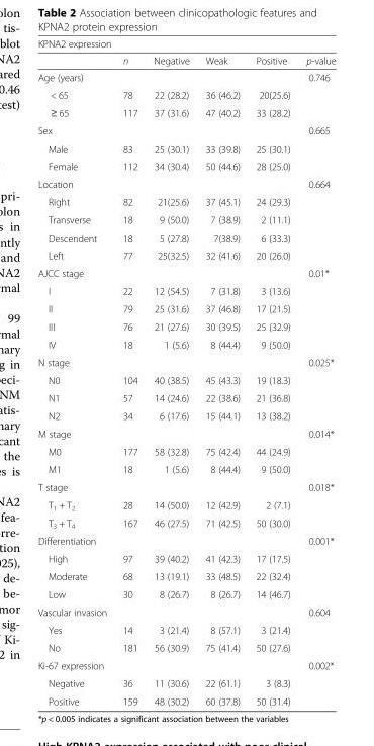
<table><thead><tr><td colspan="6">KPNA2 expression</td></tr><tr><td></td><td>n</td><td>Negative</td><td>Weak</td><td>Positive</td><td>p-value</td></tr></thead><tbody><tr><td>Age (years)</td><td></td><td></td><td></td><td></td><td>0.746</td></tr><tr><td>&lt; 65</td><td>78</td><td>22 (28.2)</td><td>36 (46.2)</td><td>20(25.6)</td><td></td></tr><tr><td>≥ 65</td><td>117</td><td>37 (31.6)</td><td>47 (40.2)</td><td>33 (28.2)</td><td></td></tr><tr><td>Sex</td><td></td><td></td><td></td><td></td><td>0.665</td></tr><tr><td>Male</td><td>83</td><td>25 (30.1)</td><td>33 (39.8)</td><td>25 (30.1)</td><td></td></tr><tr><td>Female</td><td>112</td><td>34 (30.4)</td><td>50 (44.6)</td><td>28 (25.0)</td><td></td></tr><tr><td>Location</td><td></td><td></td><td></td><td></td><td>0.664</td></tr><tr><td>Right</td><td>82</td><td>21(25.6)</td><td>37 (45.1)</td><td>24 (29.3)</td><td></td></tr><tr><td>Transverse</td><td>18</td><td>9 (50.0)</td><td>7 (38.9)</td><td>2 (11.1)</td><td></td></tr><tr><td>Descendent</td><td>18</td><td>5 (27.8)</td><td>7(38.9)</td><td>6 (33.3)</td><td></td></tr><tr><td>Left</td><td>77</td><td>25(32.5)</td><td>32 (41.6)</td><td>20 (26.0)</td><td></td></tr><tr><td>AJCC stage</td><td></td><td></td><td></td><td></td><td>0.01*</td></tr><tr><td>I</td><td>22</td><td>12 (54.5)</td><td>7 (31.8)</td><td>3 (13.6)</td><td></td></tr><tr><td>II</td><td>79</td><td>25 (31.6)</td><td>37 (46.8)</td><td>17 (21.5)</td><td></td></tr><tr><td>III</td><td>76</td><td>21 (27.6)</td><td>30 (39.5)</td><td>25 (32.9)</td><td></td></tr><tr><td>IV</td><td>18</td><td>1 (5.6)</td><td>8 (44.4)</td><td>9 (50.0)</td><td></td></tr><tr><td>N stage</td><td></td><td></td><td></td><td></td><td>0.025*</td></tr><tr><td>N0</td><td>104</td><td>40 (38.5)</td><td>45 (43.3)</td><td>19 (18.3)</td><td></td></tr><tr><td>N1</td><td>57</td><td>14 (24.6)</td><td>22 (38.6)</td><td>21 (36.8)</td><td></td></tr><tr><td>N2</td><td>34</td><td>6 (17.6)</td><td>15 (44.1)</td><td>13 (38.2)</td><td></td></tr><tr><td>M stage</td><td></td><td></td><td></td><td></td><td>0.014*</td></tr><tr><td>M0</td><td>177</td><td>58 (32.8)</td><td>75 (42.4)</td><td>44 (24.9)</td><td></td></tr><tr><td>M1</td><td>18</td><td>1 (5.6)</td><td>8 (44.4)</td><td>9 (50.0)</td><td></td></tr><tr><td>T stage</td><td></td><td></td><td></td><td></td><td>0.018*</td></tr><tr><td>T<sub>1</sub> + T<sub>2</sub></td><td>28</td><td>14 (50.0)</td><td>12 (42.9)</td><td>2 (7.1)</td><td></td></tr><tr><td>T<sub>3</sub> + T<sub>4</sub></td><td>167</td><td>46 (27.5)</td><td>71 (42.5)</td><td>50 (30.0)</td><td></td></tr><tr><td>Differentiation</td><td></td><td></td><td></td><td></td><td>0.001*</td></tr><tr><td>High</td><td>97</td><td>39 (40.2)</td><td>41 (42.3)</td><td>17 (17.5)</td><td></td></tr><tr><td>Moderate</td><td>68</td><td>13 (19.1)</td><td>33 (48.5)</td><td>22 (32.4)</td><td></td></tr><tr><td>Low</td><td>30</td><td>8 (26.7)</td><td>8 (26.7)</td><td>14 (46.7)</td><td></td></tr><tr><td>Vascular invasion</td><td></td><td></td><td></td><td></td><td>0.604</td></tr><tr><td>Yes</td><td>14</td><td>3 (21.4)</td><td>8 (57.1)</td><td>3 (21.4)</td><td></td></tr><tr><td>No</td><td>181</td><td>56 (30.9)</td><td>75 (41.4)</td><td>50 (27.6)</td><td></td></tr><tr><td>Ki-67 expression</td><td></td><td></td><td></td><td></td><td>0.002*</td></tr><tr><td>Negative</td><td>36</td><td>11 (30.6)</td><td>22 (61.1)</td><td>3 (8.3)</td><td></td></tr><tr><td>Positive</td><td>159</td><td>48 (30.2)</td><td>60 (37.8)</td><td>50 (31.4)</td><td></td></tr></tbody></table>